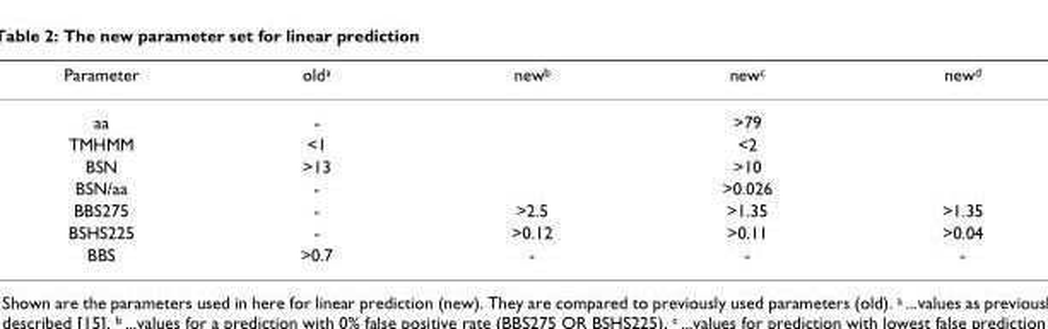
<table><thead><tr><td>Parameter</td><td>old<sup>a</sup></td><td>new<sup>b</sup></td><td>new<sup>c</sup></td><td>new<sup>d</sup></td></tr></thead><tbody><tr><td>aa</td><td>-</td><td colspan="3">&gt;79</td></tr><tr><td>TMHMM</td><td>&lt;1</td><td colspan="3">&lt;2</td></tr><tr><td>BSN</td><td>&gt;13</td><td colspan="3">&gt;10</td></tr><tr><td>BSN/aa</td><td>-</td><td colspan="3">&gt;0.026</td></tr><tr><td>BBS275</td><td>-</td><td>&gt;2.5</td><td>&gt;1.35</td><td>&gt;1.35</td></tr><tr><td>BSHS225</td><td>-</td><td>&gt;0.12</td><td>&gt;0.11</td><td>&gt;0.04</td></tr><tr><td>BBS</td><td>&gt;0.7</td><td>-</td><td>-</td><td>-</td></tr></tbody></table>